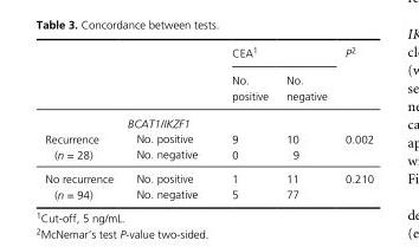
<table><thead><tr><td rowspan="2"></td><td rowspan="2"></td><td colspan="2">CEA1</td><td rowspan="2">P2</td></tr><tr><td>No. positive</td><td>No. negative</td></tr></thead><tbody><tr><td></td><td>BCAT1/IKZF1</td><td></td><td></td><td></td></tr><tr><td rowspan="2">Recurrence (n = 28)</td><td>No. positive</td><td>9</td><td>10</td><td rowspan="2">0.002</td></tr><tr><td>No. negative</td><td>0</td><td>9</td></tr><tr><td rowspan="2">No recurrence (n = 94)</td><td>No. positive</td><td>1</td><td>11</td><td rowspan="2">0.210</td></tr><tr><td>No. negative</td><td>5</td><td>77</td></tr></tbody></table>